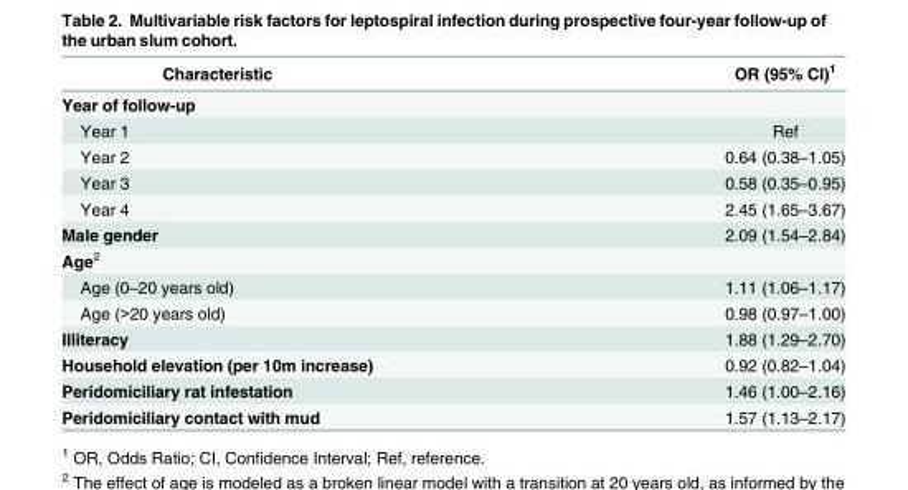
<table><thead><tr><td>Characteristic</td><td>OR (95% CI)<sup>1</sup></td></tr></thead><tbody><tr><td colspan="2">Year of follow-up</td></tr><tr><td>Year 1</td><td>Ref</td></tr><tr><td>Year 2</td><td>0.64 (0.38–1.05)</td></tr><tr><td>Year 3</td><td>0.58 (0.35–0.95)</td></tr><tr><td>Year 4</td><td>2.45 (1.65–3.67)</td></tr><tr><td>Male gender</td><td>2.09 (1.54–2.84)</td></tr><tr><td colspan="2">Age<sup>2</sup></td></tr><tr><td>Age (0–20 years old)</td><td>1.11 (1.06–1.17)</td></tr><tr><td>Age (&gt;20 years old)</td><td>0.98 (0.97–1.00)</td></tr><tr><td>Illiteracy</td><td>1.88 (1.29–2.70)</td></tr><tr><td>Household elevation (per 10m increase)</td><td>0.92 (0.82–1.04)</td></tr><tr><td>Peridomiciliary rat infestation</td><td>1.46 (1.00–2.16)</td></tr><tr><td>Peridomiciliary contact with mud</td><td>1.57 (1.13–2.17)</td></tr></tbody></table>